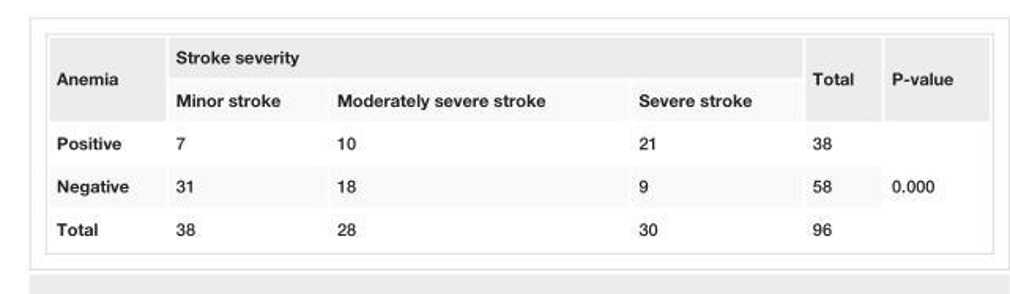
<table><tbody><tr><td rowspan="2">Anemia</td><td colspan="3">Stroke severity</td><td rowspan="2">Total</td><td rowspan="2">P-value</td></tr><tr><td>Minor stroke</td><td>Moderately severe stroke</td><td>Severe stroke</td></tr><tr><td>Positive</td><td>7</td><td>10</td><td>21</td><td>38</td><td rowspan="3">0.000</td></tr><tr><td>Negative</td><td>31</td><td>18</td><td>9</td><td>58</td></tr><tr><td>Total</td><td>38</td><td>28</td><td>30</td><td>96</td></tr></tbody></table>